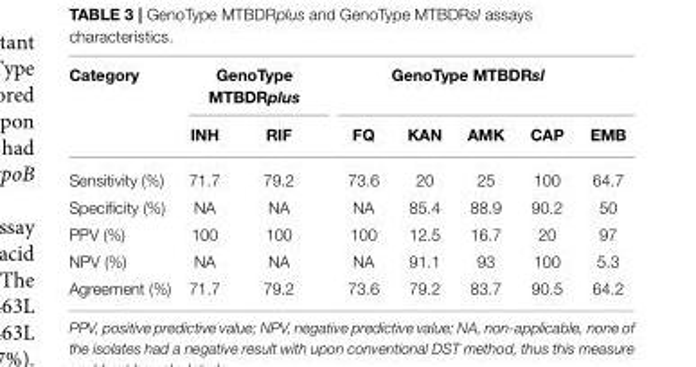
<table><thead><tr><td rowspan="2">Category</td><td colspan="2">GenoType MTBDRplus</td><td colspan="5">GenoType MTBDRsl</td></tr><tr><td>INH</td><td>RIF</td><td>FQ</td><td>KAN</td><td>AMK</td><td>CAP</td><td>EMB</td></tr></thead><tbody><tr><td>Sensitivity (%)</td><td>71.7</td><td>79.2</td><td>73.6</td><td>20</td><td>25</td><td>100</td><td>64.7</td></tr><tr><td>Specificity (%)</td><td>NA</td><td>NA</td><td>NA</td><td>85.4</td><td>88.9</td><td>90.2</td><td>50</td></tr><tr><td>PPV (%)</td><td>100</td><td>100</td><td>100</td><td>12.5</td><td>16.7</td><td>20</td><td>97</td></tr><tr><td>NPV (%)</td><td>NA</td><td>NA</td><td>NA</td><td>91.1</td><td>93</td><td>100</td><td>5.3</td></tr><tr><td>Agreement (%)</td><td>71.7</td><td>79.2</td><td>73.6</td><td>79.2</td><td>83.7</td><td>90.5</td><td>64.2</td></tr></tbody></table>